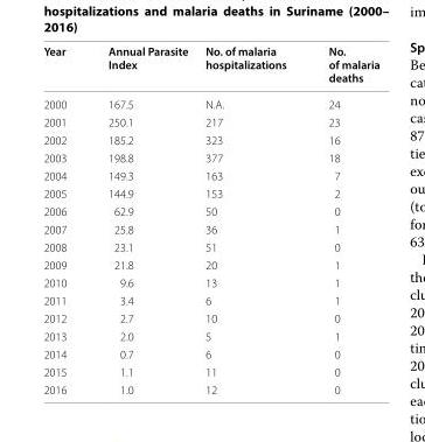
<table><thead><tr><td>Year</td><td>Annual Parasite Index</td><td>No. of malaria hospitalizations</td><td>No. of malaria deaths</td></tr></thead><tbody><tr><td>2000</td><td>167.5</td><td>N.A.</td><td>24</td></tr><tr><td>2001</td><td>250.1</td><td>217</td><td>23</td></tr><tr><td>2002</td><td>185.2</td><td>323</td><td>16</td></tr><tr><td>2003</td><td>198.8</td><td>377</td><td>18</td></tr><tr><td>2004</td><td>149.3</td><td>163</td><td>7</td></tr><tr><td>2005</td><td>144.9</td><td>153</td><td>2</td></tr><tr><td>2006</td><td>62.9</td><td>50</td><td>0</td></tr><tr><td>2007</td><td>25.8</td><td>36</td><td>1</td></tr><tr><td>2008</td><td>23.1</td><td>51</td><td>0</td></tr><tr><td>2009</td><td>21.8</td><td>20</td><td>1</td></tr><tr><td>2010</td><td>9.6</td><td>13</td><td>1</td></tr><tr><td>2011</td><td>3.4</td><td>6</td><td>1</td></tr><tr><td>2012</td><td>2.7</td><td>10</td><td>0</td></tr><tr><td>2013</td><td>2.0</td><td>5</td><td>1</td></tr><tr><td>2014</td><td>0.7</td><td>6</td><td>0</td></tr><tr><td>2015</td><td>1.1</td><td>11</td><td>0</td></tr><tr><td>2016</td><td>1.0</td><td>12</td><td>0</td></tr></tbody></table>